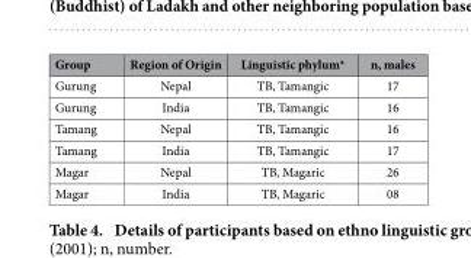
<table><thead><tr><td>Group</td><td>Region of Origin</td><td>Linguistic phylum*</td><td>n, males</td></tr></thead><tbody><tr><td>Gurung</td><td>Nepal</td><td>TB, Tamangic</td><td>17</td></tr><tr><td>Gurung</td><td>India</td><td>TB, Tamangic</td><td>16</td></tr><tr><td>Tamang</td><td>Nepal</td><td>TB, Tamangic</td><td>16</td></tr><tr><td>Tamang</td><td>India</td><td>TB, Tamangic</td><td>17</td></tr><tr><td>Magar</td><td>Nepal</td><td>TB, Magaric</td><td>26</td></tr><tr><td>Magar</td><td>India</td><td>TB, Magaric</td><td>08</td></tr></tbody></table>